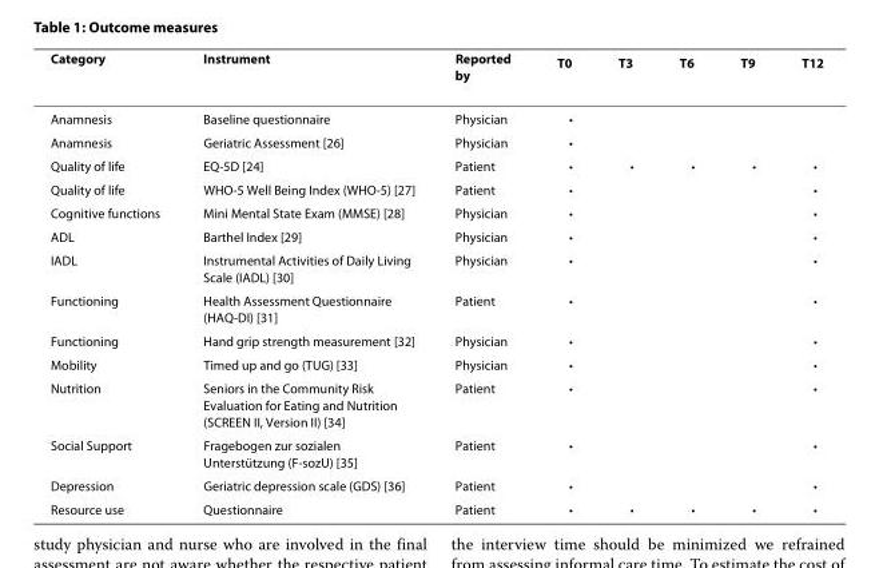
<table><thead><tr><td>Category</td><td>Instrument</td><td>Reported by</td><td>T<sub>0</sub></td><td>T<sub>3</sub></td><td>T<sub>6</sub></td><td>T<sub>9</sub></td><td>T<sub>12</sub></td></tr></thead><tbody><tr><td>Anamnesis</td><td>Baseline questionnaire</td><td>Physician</td><td>•</td><td></td><td></td><td></td><td></td></tr><tr><td>Anamnesis</td><td>Geriatric Assessment [26]</td><td>Physician</td><td>•</td><td></td><td></td><td></td><td></td></tr><tr><td>Quality of life</td><td>EQ-5D [24]</td><td>Patient</td><td>•</td><td>•</td><td>•</td><td>•</td><td>•</td></tr><tr><td>Quality of life</td><td>WHO-5 Well Being Index (WHO-5) [27]</td><td>Patient</td><td>•</td><td></td><td></td><td></td><td>•</td></tr><tr><td>Cognitive functions</td><td>Mini Mental State Exam (MMSE) [28]</td><td>Physician</td><td>•</td><td></td><td></td><td></td><td>•</td></tr><tr><td>ADL</td><td>Barthel Index [29]</td><td>Physician</td><td>•</td><td></td><td></td><td></td><td>•</td></tr><tr><td>IADL</td><td>Instrumental Activities of Daily Living Scale (IADL) [30]</td><td>Physician</td><td>•</td><td></td><td></td><td></td><td>•</td></tr><tr><td>Functioning</td><td>Health Assessment Questionnaire (HAQ-DI) [31]</td><td>Patient</td><td>•</td><td></td><td></td><td></td><td>•</td></tr><tr><td>Functioning</td><td>Hand grip strength measurement [32]</td><td>Physician</td><td>•</td><td></td><td></td><td></td><td>•</td></tr><tr><td>Mobility</td><td>Timed up and go (TUG) [33]</td><td>Physician</td><td>•</td><td></td><td></td><td></td><td>•</td></tr><tr><td>Nutrition</td><td>Seniors in the Community Risk Evaluation for Eating and Nutrition (SCREEN II, Version II) [34]</td><td>Patient</td><td>•</td><td></td><td></td><td></td><td>•</td></tr><tr><td>Social Support</td><td>Fragebogen zur sozialen Unterstützung (F-sozU) [35]</td><td>Patient</td><td>•</td><td></td><td></td><td></td><td>•</td></tr><tr><td>Depression</td><td>Geriatric depression scale (GDS) [36]</td><td>Patient</td><td>•</td><td></td><td></td><td></td><td>•</td></tr><tr><td>Resource use</td><td>Questionnaire</td><td>Patient</td><td>•</td><td>•</td><td>•</td><td>•</td><td>•</td></tr></tbody></table>